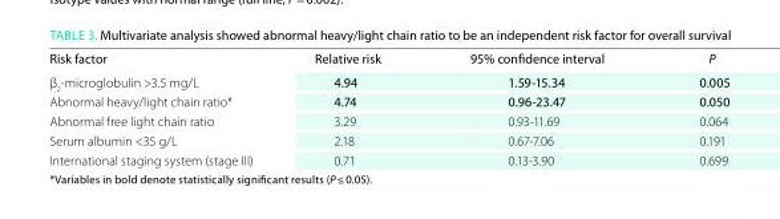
<table><thead><tr><td>Risk factor</td><td>Relative risk</td><td>95% confidence interval</td><td>P</td></tr></thead><tbody><tr><td>β<sub>2</sub>-microglobulin &gt;3.5 mg/L</td><td>4.94</td><td>1.59-15.34</td><td>0.005</td></tr><tr><td>Abnormal heavy/light chain ratio*</td><td>4.74</td><td>0.96-23.47</td><td>0.050</td></tr><tr><td>Abnormal free light chain ratio</td><td>3.29</td><td>0.93-11.69</td><td>0.064</td></tr><tr><td>Serum albumin &lt;35 g/L</td><td>2.18</td><td>0.67-7.06</td><td>0.191</td></tr><tr><td>International staging system (stage III)</td><td>0.71</td><td>0.13-3.90</td><td>0.699</td></tr></tbody></table>